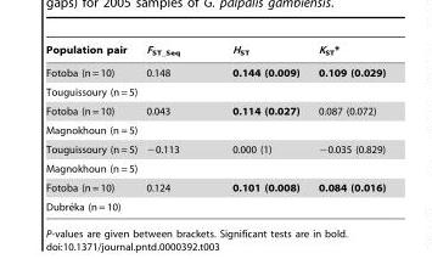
<table><thead><tr><td>Population pair</td><td>F<sub>ST_Seq</sub></td><td>H<sub>ST</sub></td><td>K<sub>ST</sub>*</td></tr></thead><tbody><tr><td>Fotoba (n = 10)</td><td>0.148</td><td>0.144 (0.009)</td><td>0.109 (0.029)</td></tr><tr><td colspan="4">Touguissoury (n = 5)</td></tr><tr><td>Fotoba (n = 10)</td><td>0.043</td><td>0.114 (0.027)</td><td>0.087 (0.072)</td></tr><tr><td colspan="4">Magnokhoun (n = 5)</td></tr><tr><td>Touguissoury (n = 5)</td><td>−0.113</td><td>0.000 (1)</td><td>−0.035 (0.829)</td></tr><tr><td colspan="4">Magnokhoun (n = 5)</td></tr><tr><td>Fotoba (n = 10)</td><td>0.124</td><td>0.101 (0.008)</td><td>0.084 (0.016)</td></tr><tr><td colspan="4">Dubre´ka (n = 10)</td></tr></tbody></table>